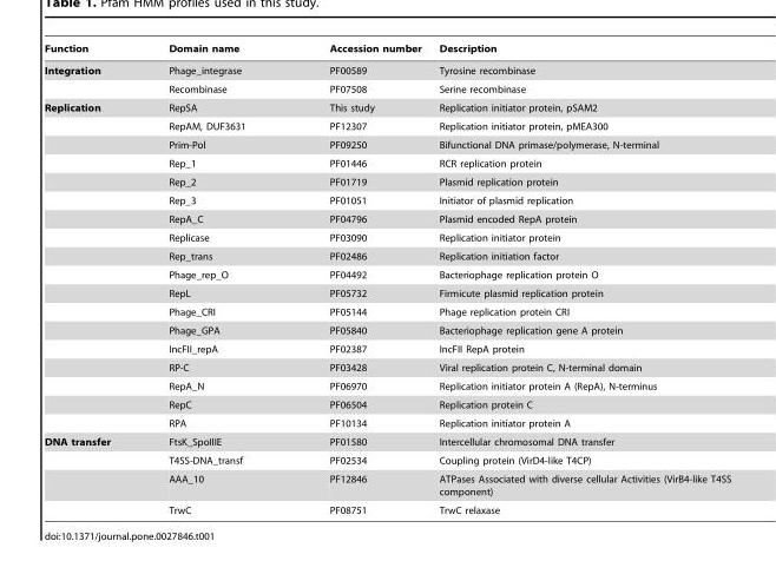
<table><thead><tr><td>Function</td><td>Domain name</td><td>Accession number</td><td>Description</td></tr></thead><tbody><tr><td rowspan="2">Integration</td><td>Phage_integrase</td><td>PF00589</td><td>Tyrosine recombinase</td></tr><tr><td>Recombinase</td><td>PF07508</td><td>Serine recombinase</td></tr><tr><td rowspan="18">Replication</td><td>RepSA</td><td>This study</td><td>Replication initiator protein, pSAM2</td></tr><tr><td>RepAM, DUF3631</td><td>PF12307</td><td>Replication initiator protein, pMEA300</td></tr><tr><td>Prim-Pol</td><td>PF09250</td><td>Bifunctional DNA primase/polymerase, N-terminal</td></tr><tr><td>Rep_1</td><td>PF01446</td><td>RCR replication protein</td></tr><tr><td>Rep_2</td><td>PF01719</td><td>Plasmid replication protein</td></tr><tr><td>Rep_3</td><td>PF01051</td><td>Initiator of plasmid replication</td></tr><tr><td>RepA_C</td><td>PF04796</td><td>Plasmid encoded RepA protein</td></tr><tr><td>Replicase</td><td>PF03090</td><td>Replication initiator protein</td></tr><tr><td>Rep_trans</td><td>PF02486</td><td>Replication initiation factor</td></tr><tr><td>Phage_rep_O</td><td>PF04492</td><td>Bacteriophage replication protein O</td></tr><tr><td>RepL</td><td>PF05732</td><td>Firmicute plasmid replication protein</td></tr><tr><td>Phage_CRI</td><td>PF05144</td><td>Phage replication protein CRI</td></tr><tr><td>Phage_GPA</td><td>PF05840</td><td>Bacteriophage replication gene A protein</td></tr><tr><td>IncFII_repA</td><td>PF02387</td><td>IncFII RepA protein</td></tr><tr><td>RP-C</td><td>PF03428</td><td>Viral replication protein C, N-terminal domain</td></tr><tr><td>RepA_N</td><td>PF06970</td><td>Replication initiator protein A (RepA), N-terminus</td></tr><tr><td>RepC</td><td>PF06504</td><td>Replication protein C</td></tr><tr><td>RPA</td><td>PF10134</td><td>Replication initiator protein A</td></tr><tr><td rowspan="4">DNA transfer</td><td>FtsK_SpoIIIE</td><td>PF01580</td><td>Intercellular chromosomal DNA transfer</td></tr><tr><td>T4SS-DNA_transf</td><td>PF02534</td><td>Coupling protein (VirD4-like T4CP)</td></tr><tr><td>AAA_10</td><td>PF12846</td><td>ATPases Associated with diverse cellular Activities (VirB4-like T4SS component)</td></tr><tr><td>TrwC</td><td>PF08751</td><td>TrwC relaxase</td></tr></tbody></table>